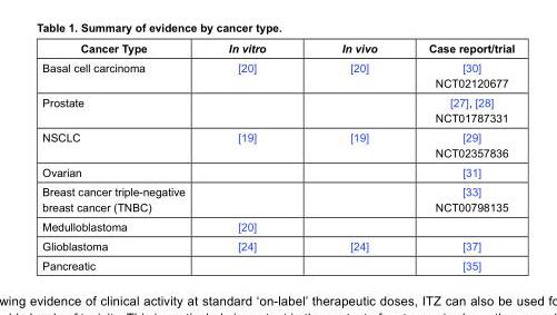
<table><thead><tr><td>Cancer Type</td><td>In vitro</td><td>In vivo</td><td>Case report/trial</td></tr></thead><tbody><tr><td>Basal cell carcinoma</td><td>[20]</td><td>[20]</td><td>[30] NCT02120677</td></tr><tr><td>Prostate</td><td></td><td></td><td>[27], [28] NCT01787331</td></tr><tr><td>NSCLC</td><td>[19]</td><td>[19]</td><td>[29] NCT02357836</td></tr><tr><td>Ovarian</td><td></td><td></td><td>[31]</td></tr><tr><td>Breast cancer triple-negative breast cancer (TNBC)</td><td></td><td></td><td>[33] NCT00798135</td></tr><tr><td>Medulloblastoma</td><td>[20]</td><td></td><td></td></tr><tr><td>Glioblastoma</td><td>[24]</td><td>[24]</td><td>[37]</td></tr><tr><td>Pancreatic</td><td></td><td></td><td>[35]</td></tr></tbody></table>